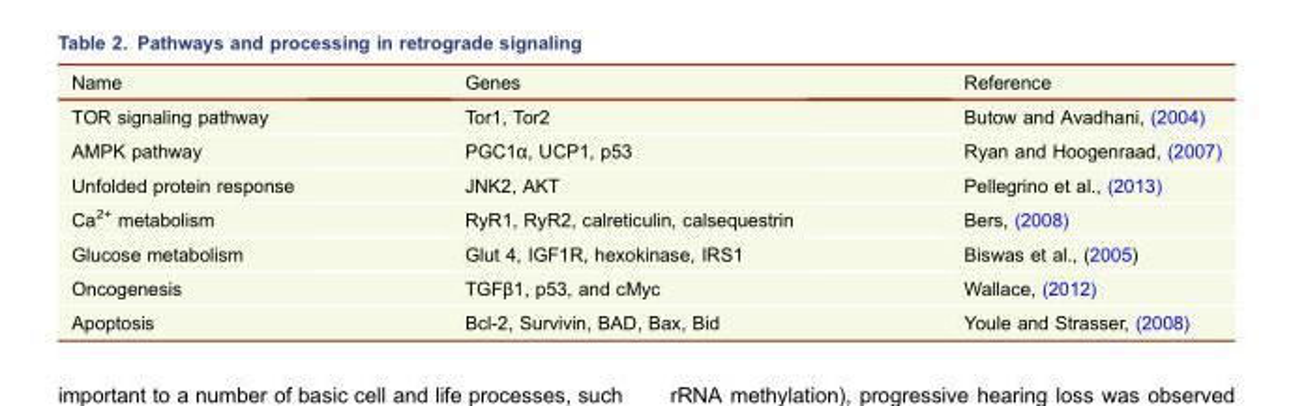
<table><thead><tr><td>Name</td><td>Genes</td><td>Reference</td></tr></thead><tbody><tr><td>TOR signaling pathway</td><td>Tor1, Tor2</td><td>Butow and Avadhani, (2004)</td></tr><tr><td>AMPK pathway</td><td>PGC1α, UCP1, p53</td><td>Ryan and Hoogenraad, (2007)</td></tr><tr><td>Unfolded protein response</td><td>JNK2, AKT</td><td>Pellegrino et al., (2013)</td></tr><tr><td>Ca<sup>2+</sup> metabolism</td><td>RyR1, RyR2, calreticulin, calsequestrin</td><td>Bers, (2008)</td></tr><tr><td>Glucose metabolism</td><td>Glut 4, IGF1R, hexokinase, IRS1</td><td>Biswas et al., (2005)</td></tr><tr><td>Oncogenesis</td><td>TGFβ1, p53, and cMyc</td><td>Wallace, (2012)</td></tr><tr><td>Apoptosis</td><td>Bcl-2, Survivin, BAD, Bax, Bid</td><td>Youle and Strasser, (2008)</td></tr></tbody></table>